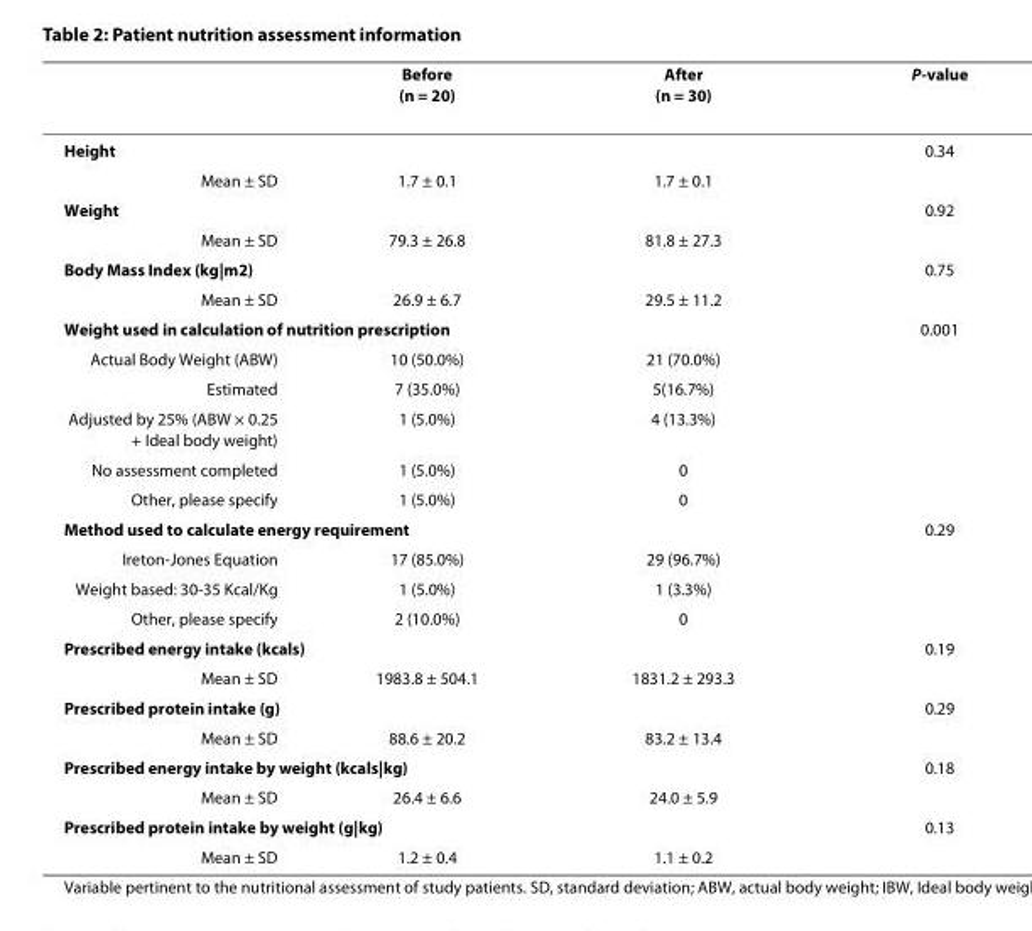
<table><thead><tr><td></td><td>Before (n = 20)</td><td>After (n = 30)</td><td>P-value</td></tr></thead><tbody><tr><td colspan="3">Height</td><td>0.34</td></tr><tr><td>Mean ± SD</td><td>1.7 ± 0.1</td><td>1.7 ± 0.1</td><td></td></tr><tr><td colspan="3">Weight</td><td>0.92</td></tr><tr><td>Mean ± SD</td><td>79.3 ± 26.8</td><td>81.8 ± 27.3</td><td></td></tr><tr><td colspan="3">Body Mass Index (kg|m2)</td><td>0.75</td></tr><tr><td>Mean ± SD</td><td>26.9 ± 6.7</td><td>29.5 ± 11.2</td><td></td></tr><tr><td colspan="3">Weight used in calculation of nutrition prescription</td><td>0.001</td></tr><tr><td>Actual Body Weight (ABW)</td><td>10 (50.0%)</td><td>21 (70.0%)</td><td></td></tr><tr><td>Estimated</td><td>7 (35.0%)</td><td>5(16.7%)</td><td></td></tr><tr><td>Adjusted by 25% (ABW × 0.25 + Ideal body weight)</td><td>1 (5.0%)</td><td>4 (13.3%)</td><td></td></tr><tr><td>No assessment completed</td><td>1 (5.0%)</td><td>0</td><td></td></tr><tr><td>Other, please specify</td><td>1 (5.0%)</td><td>0</td><td></td></tr><tr><td colspan="3">Method used to calculate energy requirement</td><td>0.29</td></tr><tr><td>Ireton-Jones Equation</td><td>17 (85.0%)</td><td>29 (96.7%)</td><td></td></tr><tr><td>Weight based: 30-35 Kcal/Kg</td><td>1 (5.0%)</td><td>1 (3.3%)</td><td></td></tr><tr><td>Other, please specify</td><td>2 (10.0%)</td><td>0</td><td></td></tr><tr><td colspan="3">Prescribed energy intake (kcals)</td><td>0.19</td></tr><tr><td>Mean ± SD</td><td>1983.8 ± 504.1</td><td>1831.2 ± 293.3</td><td></td></tr><tr><td colspan="3">Prescribed protein intake (g)</td><td>0.29</td></tr><tr><td>Mean ± SD</td><td>88.6 ± 20.2</td><td>83.2 ± 13.4</td><td></td></tr><tr><td colspan="3">Prescribed energy intake by weight (kcals|kg)</td><td>0.18</td></tr><tr><td>Mean ± SD</td><td>26.4 ± 6.6</td><td>24.0 ± 5.9</td><td></td></tr><tr><td colspan="3">Prescribed protein intake by weight (g|kg)</td><td>0.13</td></tr><tr><td>Mean ± SD</td><td>1.2 ± 0.4</td><td>1.1 ± 0.2</td><td></td></tr></tbody></table>